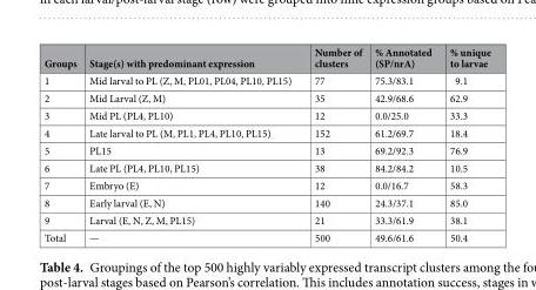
<table><thead><tr><td>Groups</td><td>Stage(s) with predominant expression</td><td>Number of clusters</td><td>% Annotated (SP/nrA)</td><td>% unique to larvae</td></tr></thead><tbody><tr><td>1</td><td>Mid larval to PL (Z, M, PL01, PL04, PL10, PL15)</td><td>77</td><td>75.3/83.1</td><td>9.1</td></tr><tr><td>2</td><td>Mid Larval (Z, M)</td><td>35</td><td>42.9/68.6</td><td>62.9</td></tr><tr><td>3</td><td>Mid PL (PL4, PL10)</td><td>12</td><td>0.0/25.0</td><td>33.3</td></tr><tr><td>4</td><td>Late larval to PL (M, PL1, PL4, PL10, PL15)</td><td>152</td><td>61.2/69.7</td><td>18.4</td></tr><tr><td>5</td><td>PL15</td><td>13</td><td>69.2/92.3</td><td>76.9</td></tr><tr><td>6</td><td>Late PL (PL4, PL10, PL15)</td><td>38</td><td>84.2/84.2</td><td>10.5</td></tr><tr><td>7</td><td>Embryo (E)</td><td>12</td><td>0.0/16.7</td><td>58.3</td></tr><tr><td>8</td><td>Early larval (E, N)</td><td>140</td><td>24.3/37.1</td><td>85.0</td></tr><tr><td>9</td><td>Larval (E, N, Z, M, PL15)</td><td>21</td><td>33.3/61.9</td><td>38.1</td></tr><tr><td>Total</td><td>—</td><td>500</td><td>49.6/61.6</td><td>50.4</td></tr></tbody></table>